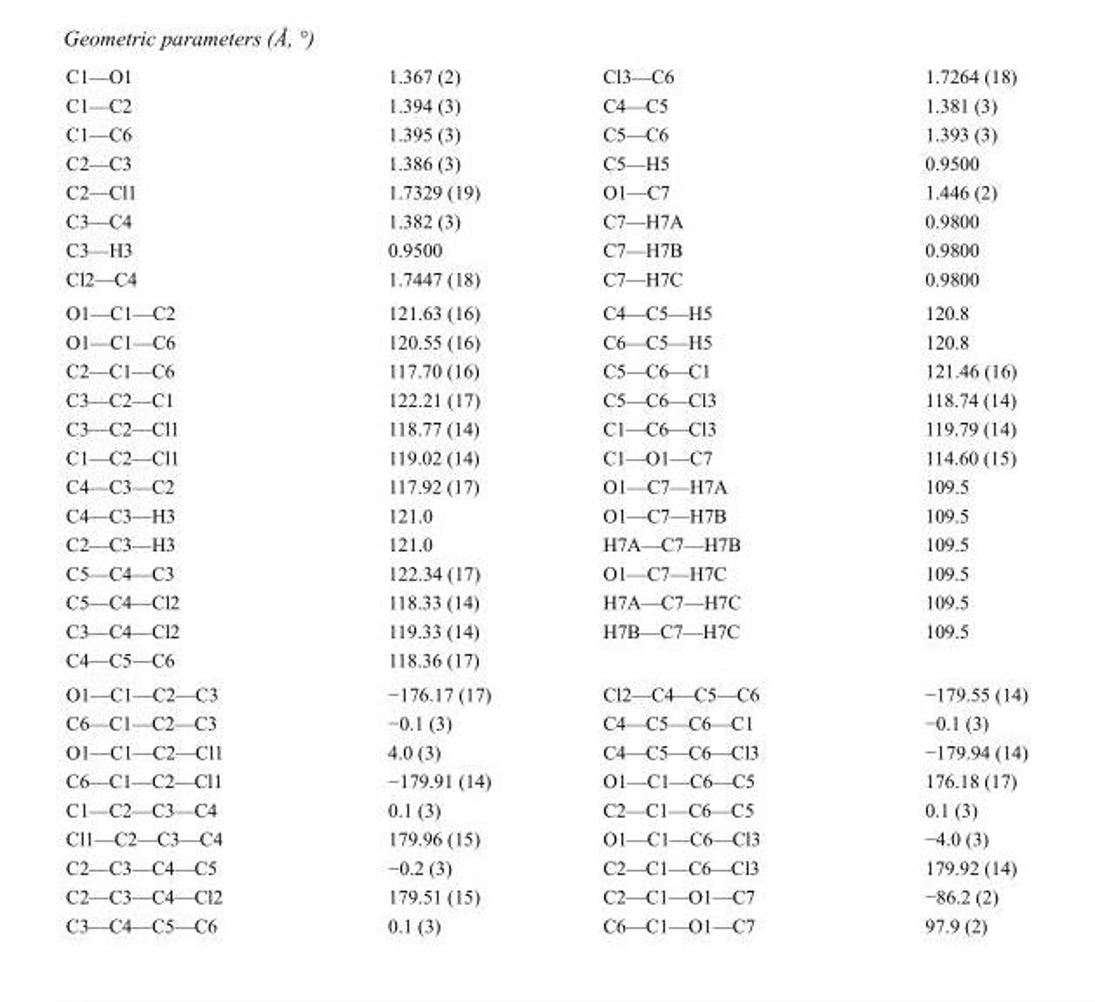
<table><tbody><tr><td>C1—O1</td><td>1.367 (2)</td><td>Cl3—C6</td><td>1.7264 (18)</td></tr><tr><td>C1—C2</td><td>1.394 (3)</td><td>C4—C5</td><td>1.381 (3)</td></tr><tr><td>C1—C6</td><td>1.395 (3)</td><td>C5—C6</td><td>1.393 (3)</td></tr><tr><td>C2—C3</td><td>1.386 (3)</td><td>C5—H5</td><td>0.9500</td></tr><tr><td>C2—Cl1</td><td>1.7329 (19)</td><td>O1—C7</td><td>1.446 (2)</td></tr><tr><td>C3—C4</td><td>1.382 (3)</td><td>C7—H7A</td><td>0.9800</td></tr><tr><td>C3—H3</td><td>0.9500</td><td>C7—H7B</td><td>0.9800</td></tr><tr><td>Cl2—C4</td><td>1.7447 (18)</td><td>C7—H7C</td><td>0.9800</td></tr><tr><td>O1—C1—C2</td><td>121.63 (16)</td><td>C4—C5—H5</td><td>120.8</td></tr><tr><td>O1—C1—C6</td><td>120.55 (16)</td><td>C6—C5—H5</td><td>120.8</td></tr><tr><td>C2—C1—C6</td><td>117.70 (16)</td><td>C5—C6—C1</td><td>121.46 (16)</td></tr><tr><td>C3—C2—C1</td><td>122.21 (17)</td><td>C5—C6—Cl3</td><td>118.74 (14)</td></tr><tr><td>C3—C2—Cl1</td><td>118.77 (14)</td><td>C1—C6—Cl3</td><td>119.79 (14)</td></tr><tr><td>C1—C2—Cl1</td><td>119.02 (14)</td><td>C1—O1—C7</td><td>114.60 (15)</td></tr><tr><td>C4—C3—C2</td><td>117.92 (17)</td><td>O1—C7—H7A</td><td>109.5</td></tr><tr><td>C4—C3—H3</td><td>121.0</td><td>O1—C7—H7B</td><td>109.5</td></tr><tr><td>C2—C3—H3</td><td>121.0</td><td>H7A—C7—H7B</td><td>109.5</td></tr><tr><td>C5—C4—C3</td><td>122.34 (17)</td><td>O1—C7—H7C</td><td>109.5</td></tr><tr><td>C5—C4—Cl2</td><td>118.33 (14)</td><td>H7A—C7—H7C</td><td>109.5</td></tr><tr><td>C3—C4—Cl2</td><td>119.33 (14)</td><td>H7B—C7—H7C</td><td>109.5</td></tr><tr><td>C4—C5—C6</td><td>118.36 (17)</td><td></td><td></td></tr><tr><td>O1—C1—C2—C3</td><td>−176.17 (17)</td><td>Cl2—C4—C5—C6</td><td>−179.55 (14)</td></tr><tr><td>C6—C1—C2—C3</td><td>−0.1 (3)</td><td>C4—C5—C6—C1</td><td>−0.1 (3)</td></tr><tr><td>O1—C1—C2—Cl1</td><td>4.0 (3)</td><td>C4—C5—C6—Cl3</td><td>−179.94 (14)</td></tr><tr><td>C6—C1—C2—Cl1</td><td>−179.91 (14)</td><td>O1—C1—C6—C5</td><td>176.18 (17)</td></tr><tr><td>C1—C2—C3—C4</td><td>0.1 (3)</td><td>C2—C1—C6—C5</td><td>0.1 (3)</td></tr><tr><td>Cl1—C2—C3—C4</td><td>179.96 (15)</td><td>O1—C1—C6—Cl3</td><td>−4.0 (3)</td></tr><tr><td>C2—C3—C4—C5</td><td>−0.2 (3)</td><td>C2—C1—C6—Cl3</td><td>179.92 (14)</td></tr><tr><td>C2—C3—C4—Cl2</td><td>179.51 (15)</td><td>C2—C1—O1—C7</td><td>−86.2 (2)</td></tr><tr><td>C3—C4—C5—C6</td><td>0.1 (3)</td><td>C6—C1—O1—C7</td><td>97.9 (2)</td></tr></tbody></table>